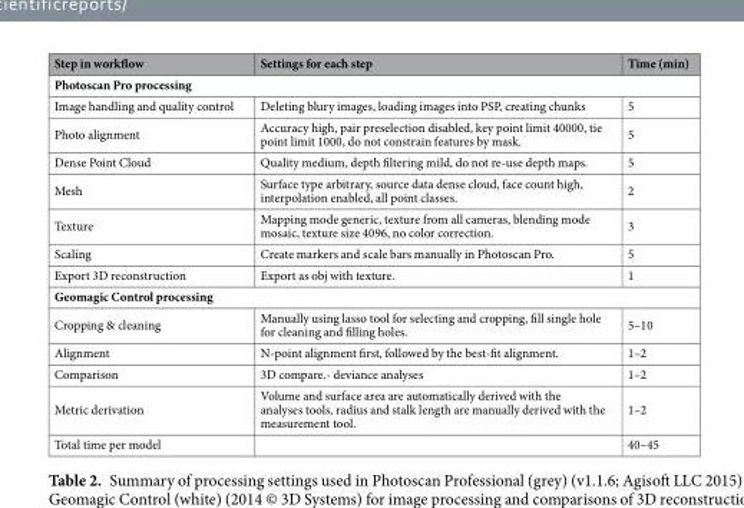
<table><thead><tr><td>Step in workflow</td><td>Settings for each step</td><td>Time (min)</td></tr></thead><tbody><tr><td colspan="3">Photoscan Pro processing</td></tr><tr><td>Image handling and quality control</td><td>Deleting blury images, loading images into PSP, creating chunks</td><td>5</td></tr><tr><td>Photo alignment</td><td>Accuracy high, pair preselection disabled, key point limit 40000, tie point limit 1000, do not constrain features by mask.</td><td>5</td></tr><tr><td>Dense Point Cloud</td><td>Quality medium, depth filtering mild, do not re-use depth maps.</td><td>5</td></tr><tr><td>Mesh</td><td>Surface type arbitrary, source data dense cloud, face count high, interpolation enabled, all point classes.</td><td>2</td></tr><tr><td>Texture</td><td>Mapping mode generic, texture from all cameras, blending mode mosaic, texture size 4096, no color correction.</td><td>3</td></tr><tr><td>Scaling</td><td>Create markers and scale bars manually in Photoscan Pro.</td><td>5</td></tr><tr><td>Export 3D reconstruction</td><td>Export as obj with texture.</td><td>1</td></tr><tr><td colspan="3">Geomagic Control processing</td></tr><tr><td>Cropping &amp; cleaning</td><td>Manually using lasso tool for selecting and cropping, fill single hole for cleaning and filling holes.</td><td>5–10</td></tr><tr><td>Alignment</td><td>N-point alignment first, followed by the best-fit alignment.</td><td>1–2</td></tr><tr><td>Comparison</td><td>3D compare.- deviance analyses</td><td>1–2</td></tr><tr><td>Metric derivation</td><td>Volume and surface area are automatically derived with the analyses tools, radius and stalk length are manually derived with the measurement tool.</td><td>1–2</td></tr><tr><td>Total time per model</td><td></td><td>40–45</td></tr></tbody></table>